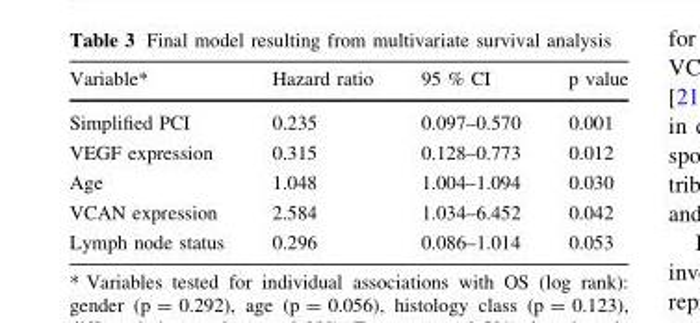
<table><thead><tr><td>Variable*</td><td>Hazard ratio</td><td>95 % CI</td><td>p value</td></tr></thead><tbody><tr><td>Simplified PCI</td><td>0.235</td><td>0.097–0.570</td><td>0.001</td></tr><tr><td>VEGF expression</td><td>0.315</td><td>0.128–0.773</td><td>0.012</td></tr><tr><td>Age</td><td>1.048</td><td>1.004–1.094</td><td>0.030</td></tr><tr><td>VCAN expression</td><td>2.584</td><td>1.034–6.452</td><td>0.042</td></tr><tr><td>Lymph node status</td><td>0.296</td><td>0.086–1.014</td><td>0.053</td></tr></tbody></table>